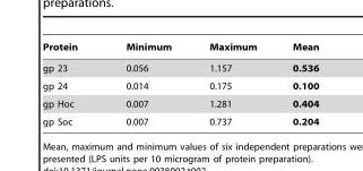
<table><thead><tr><td>Protein</td><td>Minimum</td><td>Maximum</td><td>Mean</td></tr></thead><tbody><tr><td>gp 23</td><td>0.056</td><td>1.157</td><td>0.536</td></tr><tr><td>gp 24</td><td>0.014</td><td>0.175</td><td>0.100</td></tr><tr><td>gp Hoc</td><td>0.007</td><td>1.281</td><td>0.404</td></tr><tr><td>gp Soc</td><td>0.007</td><td>0.737</td><td>0.204</td></tr></tbody></table>